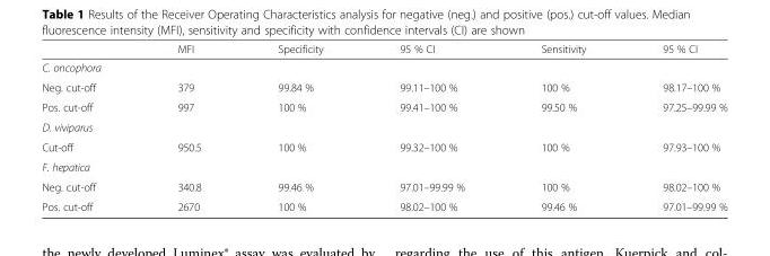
<table><thead><tr><td></td><td>MFI</td><td>Specificity</td><td>95 % CI</td><td>Sensitivity</td><td>95 % CI</td></tr></thead><tbody><tr><td colspan="6">C. oncophora</td></tr><tr><td>Neg. cut-off</td><td>379</td><td>99.84 %</td><td>99.11–100 %</td><td>100 %</td><td>98.17–100 %</td></tr><tr><td>Pos. cut-off</td><td>997</td><td>100 %</td><td>99.41–100 %</td><td>99.50 %</td><td>97.25–99.99 %</td></tr><tr><td colspan="6">D. viviparus</td></tr><tr><td>Cut-off</td><td>950.5</td><td>100 %</td><td>99.32–100 %</td><td>100 %</td><td>97.93–100 %</td></tr><tr><td colspan="6">F. hepatica</td></tr><tr><td>Neg. cut-off</td><td>340.8</td><td>99.46 %</td><td>97.01–99.99 %</td><td>100 %</td><td>98.02–100 %</td></tr><tr><td>Pos. cut-off</td><td>2670</td><td>100 %</td><td>98.02–100 %</td><td>99.46 %</td><td>97.01–99.99 %</td></tr></tbody></table>